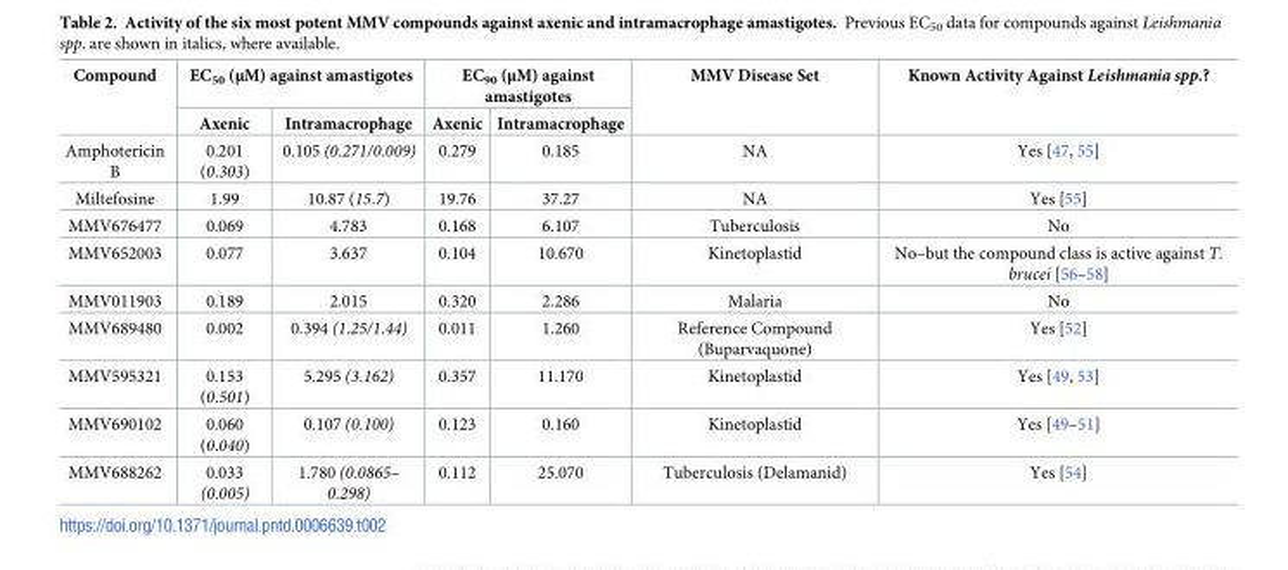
<table><thead><tr><td rowspan="2">Compound</td><td colspan="2">EC<sub>50</sub> (μM) against amastigotes</td><td colspan="2">EC<sub>90</sub> (μM) against amastigotes</td><td rowspan="2">MMV Disease Set</td><td rowspan="2">Known Activity Against Leishmania spp.?</td></tr><tr><td>Axenic</td><td>Intramacrophage</td><td>Axenic</td><td>Intramacrophage</td></tr></thead><tbody><tr><td>Amphotericin B</td><td>0.201 (0.303)</td><td>0.105 (0.271/0.009)</td><td>0.279</td><td>0.185</td><td>NA</td><td>Yes [47, 55]</td></tr><tr><td>Miltefosine</td><td>1.99</td><td>10.87 (15.7)</td><td>19.76</td><td>37.27</td><td>NA</td><td>Yes [55]</td></tr><tr><td>MMV676477</td><td>0.069</td><td>4.783</td><td>0.168</td><td>6.107</td><td>Tuberculosis</td><td>No</td></tr><tr><td>MMV652003</td><td>0.077</td><td>3.637</td><td>0.104</td><td>10.670</td><td>Kinetoplastid</td><td>No–but the compound class is active against T. brucei [56–58]</td></tr><tr><td>MMV011903</td><td>0.189</td><td>2.015</td><td>0.320</td><td>2.286</td><td>Malaria</td><td>No</td></tr><tr><td>MMV689480</td><td>0.002</td><td>0.394 (1.25/1.44)</td><td>0.011</td><td>1.260</td><td>Reference Compound (Buparvaquone)</td><td>Yes [52]</td></tr><tr><td>MMV595321</td><td>0.153 (0.501)</td><td>5.295 (3.162)</td><td>0.357</td><td>11.170</td><td>Kinetoplastid</td><td>Yes [49, 53]</td></tr><tr><td>MMV690102</td><td>0.060 (0.040)</td><td>0.107 (0.100)</td><td>0.123</td><td>0.160</td><td>Kinetoplastid</td><td>Yes [49–51]</td></tr><tr><td>MMV688262</td><td>0.033 (0.005)</td><td>1.780 (0.0865– 0.298)</td><td>0.112</td><td>25.070</td><td>Tuberculosis (Delamanid)</td><td>Yes [54]</td></tr></tbody></table>